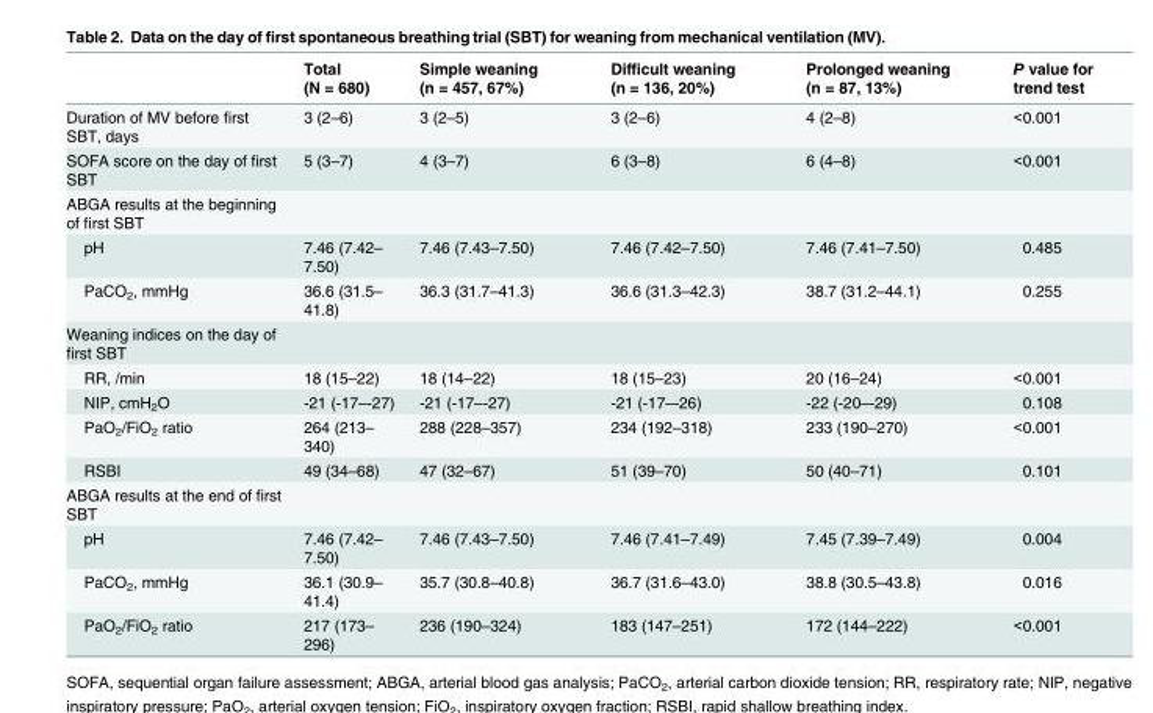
<table><thead><tr><td></td><td>Total (N = 680)</td><td>Simple weaning (n = 457, 67%)</td><td>Difficult weaning (n = 136, 20%)</td><td>Prolonged weaning (n = 87, 13%)</td><td>P value for trend test</td></tr></thead><tbody><tr><td>Duration of MV before first SBT, days</td><td>3 (2–6)</td><td>3 (2–5)</td><td>3 (2–6)</td><td>4 (2–8)</td><td>&lt;0.001</td></tr><tr><td>SOFA score on the day of first SBT</td><td>5 (3–7)</td><td>4 (3–7)</td><td>6 (3–8)</td><td>6 (4–8)</td><td>&lt;0.001</td></tr><tr><td colspan="6">ABGA results at the beginning of first SBT</td></tr><tr><td>pH</td><td>7.46 (7.42– 7.50)</td><td>7.46 (7.43–7.50)</td><td>7.46 (7.42–7.50)</td><td>7.46 (7.41–7.50)</td><td>0.485</td></tr><tr><td>PaCO<sub>2</sub>, mmHg</td><td>36.6 (31.5– 41.8)</td><td>36.3 (31.7–41.3)</td><td>36.6 (31.3–42.3)</td><td>38.7 (31.2–44.1)</td><td>0.255</td></tr><tr><td colspan="6">Weaning indices on the day of first SBT</td></tr><tr><td>RR, /min</td><td>18 (15–22)</td><td>18 (14–22)</td><td>18 (15–23)</td><td>20 (16–24)</td><td>&lt;0.001</td></tr><tr><td>NIP, cmH<sub>2</sub>O</td><td>-21 (-17–-27)</td><td>-21 (-17–-27)</td><td>-21 (-17–-26)</td><td>-22 (-20–-29)</td><td>0.108</td></tr><tr><td>PaO<sub>2</sub>/FiO<sub>2</sub> ratio</td><td>264 (213– 340)</td><td>288 (228–357)</td><td>234 (192–318)</td><td>233 (190–270)</td><td>&lt;0.001</td></tr><tr><td>RSBI</td><td>49 (34–68)</td><td>47 (32–67)</td><td>51 (39–70)</td><td>50 (40–71)</td><td>0.101</td></tr><tr><td colspan="6">ABGA results at the end of first SBT</td></tr><tr><td>pH</td><td>7.46 (7.42– 7.50)</td><td>7.46 (7.43–7.50)</td><td>7.46 (7.41–7.49)</td><td>7.45 (7.39–7.49)</td><td>0.004</td></tr><tr><td>PaCO<sub>2</sub>, mmHg</td><td>36.1 (30.9– 41.4)</td><td>35.7 (30.8–40.8)</td><td>36.7 (31.6–43.0)</td><td>38.8 (30.5–43.8)</td><td>0.016</td></tr><tr><td>PaO<sub>2</sub>/FiO<sub>2</sub> ratio</td><td>217 (173– 296)</td><td>236 (190–324)</td><td>183 (147–251)</td><td>172 (144–222)</td><td>&lt;0.001</td></tr></tbody></table>